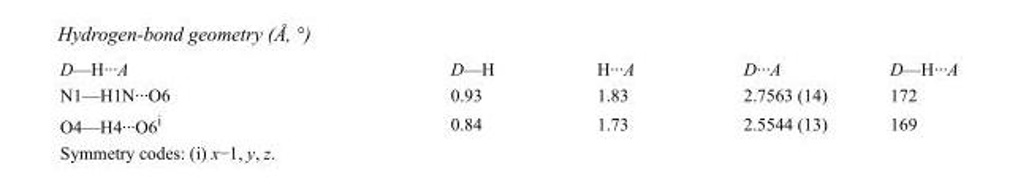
<table><tbody><tr><td>D—H···A</td><td>D—H</td><td>H···A</td><td>D···A</td><td>D—H···A</td></tr><tr><td>N1—H1N···O6</td><td>0.93</td><td>1.83</td><td>2.7563 (14)</td><td>172</td></tr><tr><td>O4—H4···O6<sup>i</sup></td><td>0.84</td><td>1.73</td><td>2.5544 (13)</td><td>169</td></tr></tbody></table>